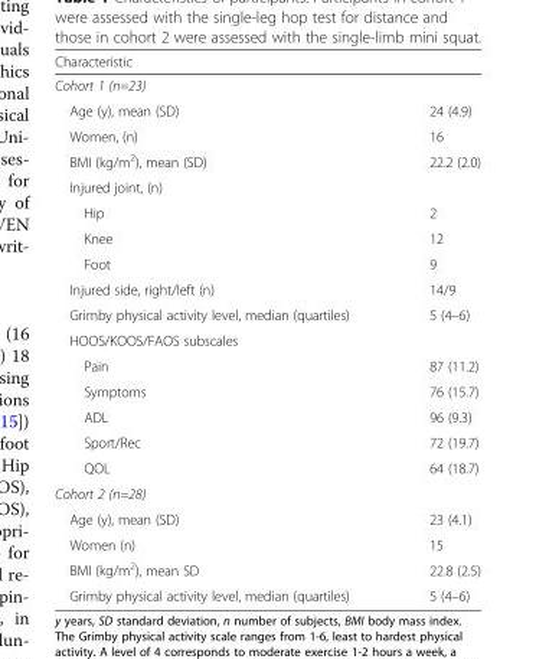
<table><thead><tr><td>Characteristic</td><td></td></tr></thead><tbody><tr><td colspan="2">Cohort 1 (n=23)</td></tr><tr><td>Age (y), mean (SD)</td><td>24 (4.9)</td></tr><tr><td>Women, (n)</td><td>16</td></tr><tr><td>BMI (kg/m<sup>2</sup>), mean (SD)</td><td>22.2 (2.0)</td></tr><tr><td colspan="2">Injured joint, (n)</td></tr><tr><td>Hip</td><td>2</td></tr><tr><td>Knee</td><td>12</td></tr><tr><td>Foot</td><td>9</td></tr><tr><td>Injured side, right/left (n)</td><td>14/9</td></tr><tr><td>Grimby physical activity level, median (quartiles)</td><td>5 (4–6)</td></tr><tr><td colspan="2">HOOS/KOOS/FAOS subscales</td></tr><tr><td>Pain</td><td>87 (11.2)</td></tr><tr><td>Symptoms</td><td>76 (15.7)</td></tr><tr><td>ADL</td><td>96 (9.3)</td></tr><tr><td>Sport/Rec</td><td>72 (19.7)</td></tr><tr><td>QOL</td><td>64 (18.7)</td></tr><tr><td colspan="2">Cohort 2 (n=28)</td></tr><tr><td>Age (y), mean (SD)</td><td>23 (4.1)</td></tr><tr><td>Women (n)</td><td>15</td></tr><tr><td>BMI (kg/m<sup>2</sup>), mean SD</td><td>22.8 (2.5)</td></tr><tr><td>Grimby physical activity level, median (quartiles)</td><td>5 (4–6)</td></tr></tbody></table>